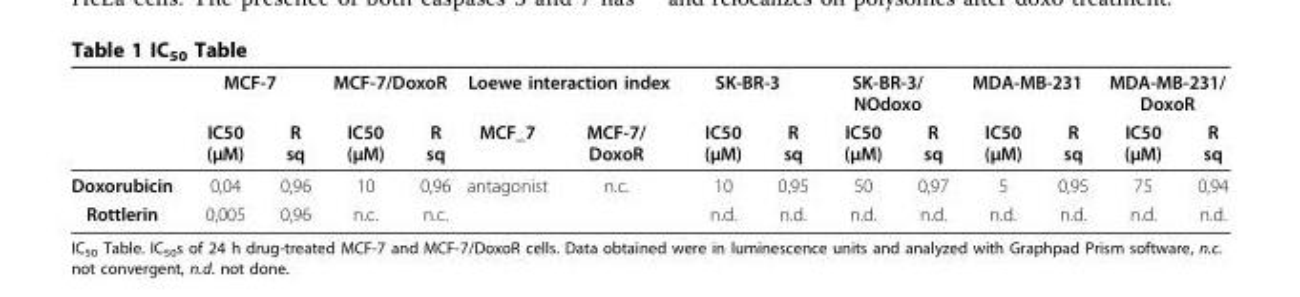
<table><thead><tr><td rowspan="2"></td><td colspan="2">MCF-7</td><td colspan="2">MCF-7/DoxoR</td><td colspan="2">Loewe interaction index</td><td colspan="2">SK-BR-3</td><td colspan="2">SK-BR-3/ NOdoxo</td><td colspan="2">MDA-MB-231</td><td colspan="2">MDA-MB-231/ DoxoR</td></tr><tr><td>IC50 (μM)</td><td>R sq</td><td>IC50 (μM)</td><td>R sq</td><td>MCF_7</td><td>MCF-7/ DoxoR</td><td>IC50 (μM)</td><td>R sq</td><td>IC50 (μM)</td><td>R sq</td><td>IC50 (μM)</td><td>R sq</td><td>IC50 (μM)</td><td>R sq</td></tr></thead><tbody><tr><td>Doxorubicin</td><td>0,04</td><td>0,96</td><td>10</td><td>0,96</td><td>antagonist</td><td>n.c.</td><td>10</td><td>0,95</td><td>50</td><td>0,97</td><td>5</td><td>0,95</td><td>75</td><td>0,94</td></tr><tr><td>Rottlerin</td><td>0,005</td><td>0,96</td><td>n.c.</td><td>n.c.</td><td></td><td></td><td>n.d.</td><td>n.d.</td><td>n.d.</td><td>n.d.</td><td>n.d.</td><td>n.d.</td><td>n.d.</td><td>n.d.</td></tr></tbody></table>